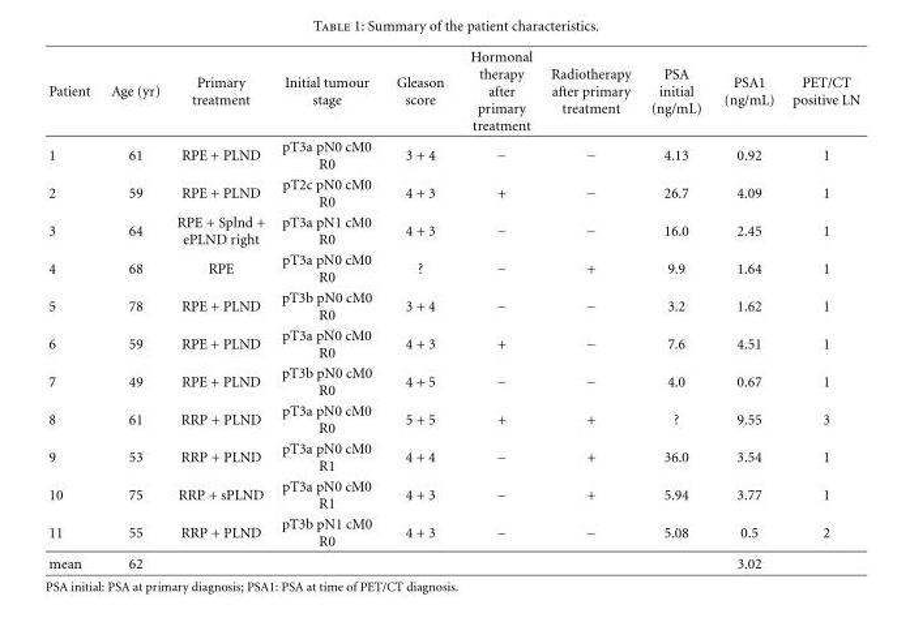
<table><thead><tr><td>Patient</td><td>Age (yr)</td><td>Primary treatment</td><td>Initial tumour stage</td><td>Gleason score</td><td>Hormonal therapy after primary treatment</td><td>Radiotherapy after primary treatment</td><td>PSA initial (ng/mL)</td><td>PSA1 (ng/mL)</td><td>PET/CT positive LN</td></tr></thead><tbody><tr><td>1</td><td>61</td><td>RPE + PLND</td><td>pT3a pN0 cM0 R0</td><td>3 + 4</td><td>−</td><td>−</td><td>4.13</td><td>0.92</td><td>1</td></tr><tr><td>2</td><td>59</td><td>RPE + PLND</td><td>pT2c pN0 cM0 R0</td><td>4 + 3</td><td>+</td><td>−</td><td>26.7</td><td>4.09</td><td>1</td></tr><tr><td>3</td><td>64</td><td>RPE + Splnd + ePLND right</td><td>pT3a pN1 cM0 R0</td><td>4 + 3</td><td>−</td><td>−</td><td>16.0</td><td>2.45</td><td>1</td></tr><tr><td>4</td><td>68</td><td>RPE</td><td>pT3a pN0 cM0 R0</td><td>?</td><td>−</td><td>+</td><td>9.9</td><td>1.64</td><td>1</td></tr><tr><td>5</td><td>78</td><td>RPE + PLND</td><td>pT3b pN0 cM0 R0</td><td>3 + 4</td><td>−</td><td>−</td><td>3.2</td><td>1.62</td><td>1</td></tr><tr><td>6</td><td>59</td><td>RPE + PLND</td><td>pT3a pN0 cM0 R0</td><td>4 + 3</td><td>+</td><td>−</td><td>7.6</td><td>4.51</td><td>1</td></tr><tr><td>7</td><td>49</td><td>RPE + PLND</td><td>pT3b pN0 cM0 R0</td><td>4 + 5</td><td>−</td><td>−</td><td>4.0</td><td>0.67</td><td>1</td></tr><tr><td>8</td><td>61</td><td>RRP + PLND</td><td>pT3a pN0 cM0 R0</td><td>5 + 5</td><td>+</td><td>+</td><td>?</td><td>9.55</td><td>3</td></tr><tr><td>9</td><td>53</td><td>RRP + PLND</td><td>pT3a pN0 cM0 R1</td><td>4 + 4</td><td>−</td><td>+</td><td>36.0</td><td>3.54</td><td>1</td></tr><tr><td>10</td><td>75</td><td>RRP + sPLND</td><td>pT3a pN0 cM0 R1</td><td>4 + 3</td><td>−</td><td>+</td><td>5.94</td><td>3.77</td><td>1</td></tr><tr><td>11</td><td>55</td><td>RRP + PLND</td><td>pT3b pN1 cM0 R0</td><td>4 + 3</td><td>−</td><td>−</td><td>5.08</td><td>0.5</td><td>2</td></tr><tr><td>mean</td><td>62</td><td></td><td></td><td></td><td></td><td></td><td></td><td>3.02</td><td></td></tr></tbody></table>